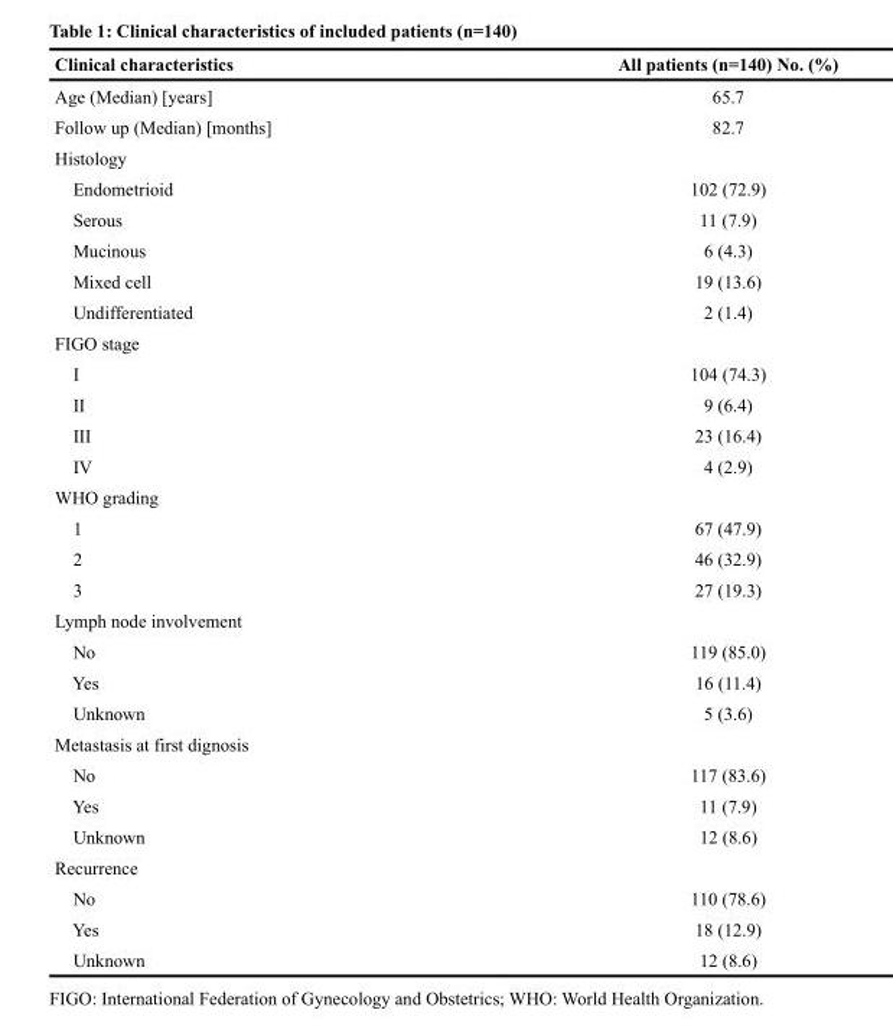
<table><thead><tr><td>Clinical characteristics</td><td>All patients (n=140) No. (%)</td></tr></thead><tbody><tr><td>Age (Median) [years]</td><td>65.7</td></tr><tr><td>Follow up (Median) [months]</td><td>82.7</td></tr><tr><td colspan="2">Histology</td></tr><tr><td>Endometrioid</td><td>102 (72.9)</td></tr><tr><td>Serous</td><td>11 (7.9)</td></tr><tr><td>Mucinous</td><td>6 (4.3)</td></tr><tr><td>Mixed cell</td><td>19 (13.6)</td></tr><tr><td>Undifferentiated</td><td>2 (1.4)</td></tr><tr><td colspan="2">FIGO stage</td></tr><tr><td>I</td><td>104 (74.3)</td></tr><tr><td>II</td><td>9 (6.4)</td></tr><tr><td>III</td><td>23 (16.4)</td></tr><tr><td>IV</td><td>4 (2.9)</td></tr><tr><td colspan="2">WHO grading</td></tr><tr><td>1</td><td>67 (47.9)</td></tr><tr><td>2</td><td>46 (32.9)</td></tr><tr><td>3</td><td>27 (19.3)</td></tr><tr><td colspan="2">Lymph node involvement</td></tr><tr><td>No</td><td>119 (85.0)</td></tr><tr><td>Yes</td><td>16 (11.4)</td></tr><tr><td>Unknown</td><td>5 (3.6)</td></tr><tr><td colspan="2">Metastasis at first dignosis</td></tr><tr><td>No</td><td>117 (83.6)</td></tr><tr><td>Yes</td><td>11 (7.9)</td></tr><tr><td>Unknown</td><td>12 (8.6)</td></tr><tr><td colspan="2">Recurrence</td></tr><tr><td>No</td><td>110 (78.6)</td></tr><tr><td>Yes</td><td>18 (12.9)</td></tr><tr><td>Unknown</td><td>12 (8.6)</td></tr></tbody></table>